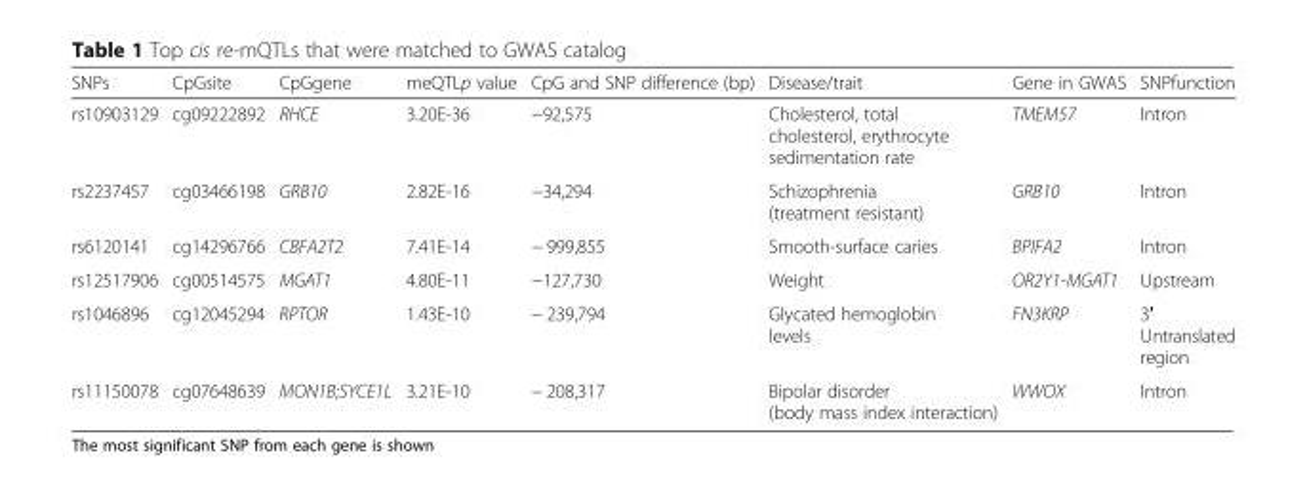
<table><thead><tr><td>SNPs</td><td>CpGsite</td><td>CpGgene</td><td>meQTLp value</td><td>CpG and SNP difference (bp)</td><td>Disease/trait</td><td>Gene in GWAS</td><td>SNPfunction</td></tr></thead><tbody><tr><td>rs10903129</td><td>cg09222892</td><td>RHCE</td><td>3.20E-36</td><td>−92,575</td><td>Cholesterol, total cholesterol, erythrocyte sedimentation rate</td><td>TMEM57</td><td>Intron</td></tr><tr><td>rs2237457</td><td>cg03466198</td><td>GRB10</td><td>2.82E-16</td><td>−34,294</td><td>Schizophrenia (treatment resistant)</td><td>GRB10</td><td>Intron</td></tr><tr><td>rs6120141</td><td>cg14296766</td><td>CBFA2T2</td><td>7.41E-14</td><td>− 999,855</td><td>Smooth-surface caries</td><td>BPIFA2</td><td>Intron</td></tr><tr><td>rs12517906</td><td>cg00514575</td><td>MGAT1</td><td>4.80E-11</td><td>−127,730</td><td>Weight</td><td>OR2Y1-MGAT1</td><td>Upstream</td></tr><tr><td>rs1046896</td><td>cg12045294</td><td>RPTOR</td><td>1.43E-10</td><td>− 239,794</td><td>Glycated hemoglobin levels</td><td>FN3KRP</td><td>3′ Untranslated region</td></tr><tr><td>rs11150078</td><td>cg07648639</td><td>MON1B;SYCE1L</td><td>3.21E-10</td><td>− 208,317</td><td>Bipolar disorder (body mass index interaction)</td><td>WWOX</td><td>Intron</td></tr></tbody></table>